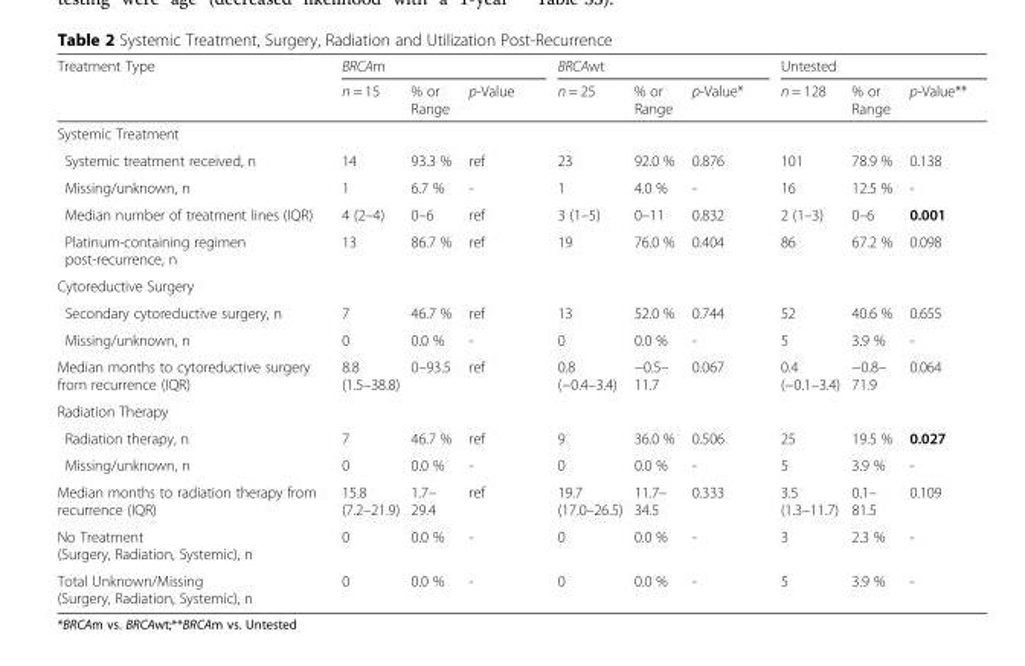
<table><thead><tr><td rowspan="2">Treatment Type</td><td colspan="3">BRCAm</td><td colspan="3">BRCAwt</td><td colspan="3">Untested</td></tr><tr><td>n = 15</td><td>% or Range</td><td>p-Value</td><td>n = 25</td><td>% or Range</td><td>p-Value*</td><td>n = 128</td><td>% or Range</td><td>p-Value**</td></tr></thead><tbody><tr><td colspan="10">Systemic Treatment</td></tr><tr><td>Systemic treatment received, n</td><td>14</td><td>93.3 %</td><td>ref</td><td>23</td><td>92.0 %</td><td>0.876</td><td>101</td><td>78.9 %</td><td>0.138</td></tr><tr><td>Missing/unknown, n</td><td>1</td><td>6.7 %</td><td>-</td><td>1</td><td>4.0 %</td><td>-</td><td>16</td><td>12.5 %</td><td>-</td></tr><tr><td>Median number of treatment lines (IQR)</td><td>4 (2–4)</td><td>0–6</td><td>ref</td><td>3 (1–5)</td><td>0–11</td><td>0.832</td><td>2 (1–3)</td><td>0–6</td><td>0.001</td></tr><tr><td>Platinum-containing regimen post-recurrence, n</td><td>13</td><td>86.7 %</td><td>ref</td><td>19</td><td>76.0 %</td><td>0.404</td><td>86</td><td>67.2 %</td><td>0.098</td></tr><tr><td colspan="10">Cytoreductive Surgery</td></tr><tr><td>Secondary cytoreductive surgery, n</td><td>7</td><td>46.7 %</td><td>ref</td><td>13</td><td>52.0 %</td><td>0.744</td><td>52</td><td>40.6 %</td><td>0.655</td></tr><tr><td>Missing/unknown, n</td><td>0</td><td>0.0 %</td><td>-</td><td>0</td><td>0.0 %</td><td>-</td><td>5</td><td>3.9 %</td><td>-</td></tr><tr><td>Median months to cytoreductive surgery from recurrence (IQR)</td><td>8.8 (1.5–38.8)</td><td>0–93.5</td><td>ref</td><td>0.8 (−0.4–3.4)</td><td>−0.5– 11.7</td><td>0.067</td><td>0.4 (−0.1–3.4)</td><td>−0.8– 71.9</td><td>0.064</td></tr><tr><td colspan="10">Radiation Therapy</td></tr><tr><td>Radiation therapy, n</td><td>7</td><td>46.7 %</td><td>ref</td><td>9</td><td>36.0 %</td><td>0.506</td><td>25</td><td>19.5 %</td><td>0.027</td></tr><tr><td>Missing/unknown, n</td><td>0</td><td>0.0 %</td><td>-</td><td>0</td><td>0.0 %</td><td>-</td><td>5</td><td>3.9 %</td><td>-</td></tr><tr><td>Median months to radiation therapy from recurrence (IQR)</td><td>15.8 (7.2–21.9)</td><td>1.7– 29.4</td><td>ref</td><td>19.7 (17.0–26.5)</td><td>11.7– 34.5</td><td>0.333</td><td>3.5 (1.3–11.7)</td><td>0.1– 81.5</td><td>0.109</td></tr><tr><td>No Treatment (Surgery, Radiation, Systemic), n</td><td>0</td><td>0.0 %</td><td>-</td><td>0</td><td>0.0 %</td><td>-</td><td>3</td><td>2.3 %</td><td>-</td></tr><tr><td>Total Unknown/Missing (Surgery, Radiation, Systemic), n</td><td>0</td><td>0.0 %</td><td>-</td><td>0</td><td>0.0 %</td><td>-</td><td>5</td><td>3.9 %</td><td>-</td></tr></tbody></table>